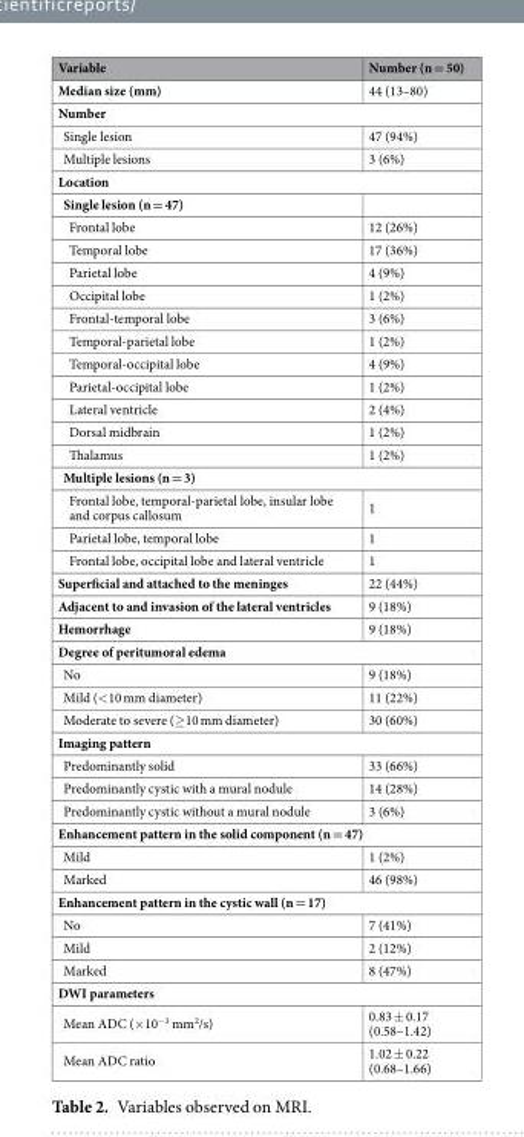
<table><thead><tr><td>Variable</td><td>Number (n = 50)</td></tr></thead><tbody><tr><td>Median size (mm)</td><td>44 (13–80)</td></tr><tr><td colspan="2">Number</td></tr><tr><td>Single lesion</td><td>47 (94%)</td></tr><tr><td>Multiple lesions</td><td>3 (6%)</td></tr><tr><td colspan="2">Location</td></tr><tr><td colspan="2">Single lesion (n = 47)</td></tr><tr><td>Frontal lobe</td><td>12 (26%)</td></tr><tr><td>Temporal lobe</td><td>17 (36%)</td></tr><tr><td>Parietal lobe</td><td>4 (9%)</td></tr><tr><td>Occipital lobe</td><td>1 (2%)</td></tr><tr><td>Frontal-temporal lobe</td><td>3 (6%)</td></tr><tr><td>Temporal-parietal lobe</td><td>1 (2%)</td></tr><tr><td>Temporal-occipital lobe</td><td>4 (9%)</td></tr><tr><td>Parietal-occipital lobe</td><td>1 (2%)</td></tr><tr><td>Lateral ventricle</td><td>2 (4%)</td></tr><tr><td>Dorsal midbrain</td><td>1 (2%)</td></tr><tr><td>Thalamus</td><td>1 (2%)</td></tr><tr><td colspan="2">Multiple lesions (n = 3)</td></tr><tr><td>Frontal lobe, temporal-parietal lobe, insular lobe and corpus callosum</td><td>1</td></tr><tr><td>Parietal lobe, temporal lobe</td><td>1</td></tr><tr><td>Frontal lobe, occipital lobe and lateral ventricle</td><td>1</td></tr><tr><td>Superficial and attached to the meninges</td><td>22 (44%)</td></tr><tr><td>Adjacent to and invasion of the lateral ventricles</td><td>9 (18%)</td></tr><tr><td>Hemorrhage</td><td>9 (18%)</td></tr><tr><td colspan="2">Degree of peritumoral edema</td></tr><tr><td>No</td><td>9 (18%)</td></tr><tr><td>Mild (&lt;10 mm diameter)</td><td>11 (22%)</td></tr><tr><td>Moderate to severe (≥10 mm diameter)</td><td>30 (60%)</td></tr><tr><td colspan="2">Imaging pattern</td></tr><tr><td>Predominantly solid</td><td>33 (66%)</td></tr><tr><td>Predominantly cystic with a mural nodule</td><td>14 (28%)</td></tr><tr><td>Predominantly cystic without a mural nodule</td><td>3 (6%)</td></tr><tr><td colspan="2">Enhancement pattern in the solid component (n = 47)</td></tr><tr><td>Mild</td><td>1 (2%)</td></tr><tr><td>Marked</td><td>46 (98%)</td></tr><tr><td colspan="2">Enhancement pattern in the cystic wall (n = 17)</td></tr><tr><td>No</td><td>7 (41%)</td></tr><tr><td>Mild</td><td>2 (12%)</td></tr><tr><td>Marked</td><td>8 (47%)</td></tr><tr><td colspan="2">DWI parameters</td></tr><tr><td>Mean ADC (×10<sup>−3</sup> mm<sup>2</sup>/s)</td><td>0.83 ± 0.17 (0.58–1.42)</td></tr><tr><td>Mean ADC ratio</td><td>1.02 ± 0.22 (0.68–1.66)</td></tr></tbody></table>